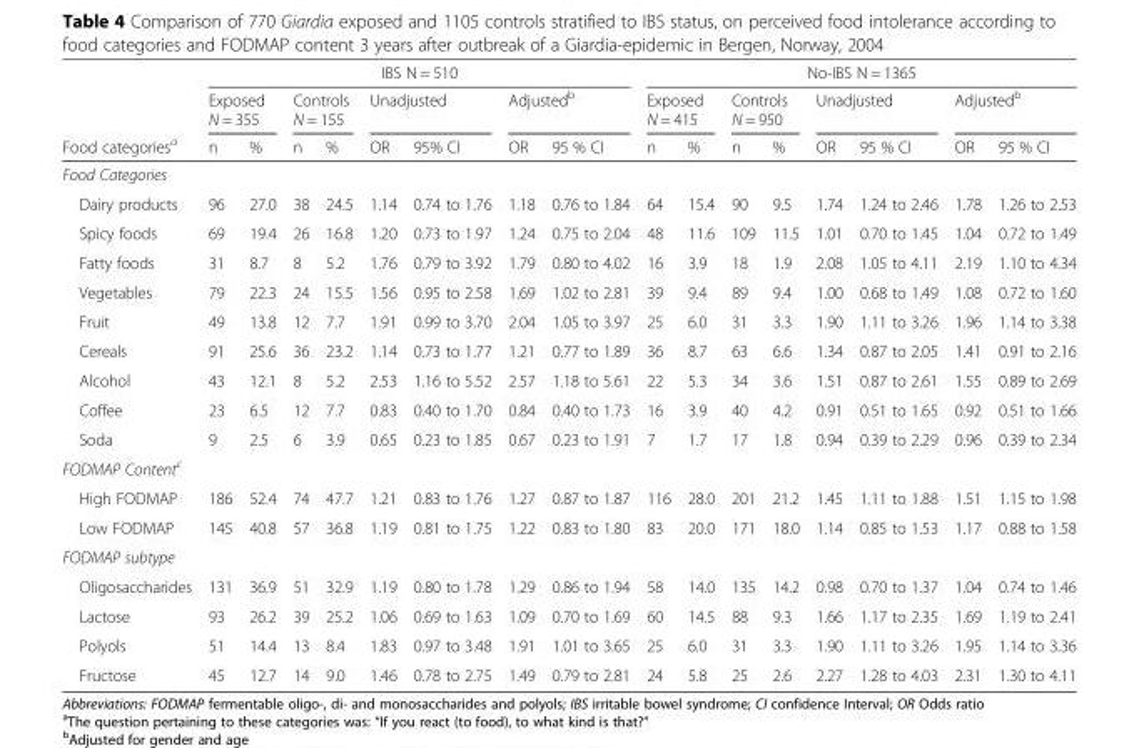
<table><thead><tr><td rowspan="3">Food categories<sup>a</sup></td><td colspan="8">IBS N = 510</td><td colspan="8">No-IBS N = 1365</td></tr><tr><td colspan="2">Exposed N = 355</td><td colspan="2">Controls N = 155</td><td colspan="2">Unadjusted</td><td colspan="2">Adjusted<sup>b</sup></td><td colspan="2">Exposed N = 415</td><td colspan="2">Controls N = 950</td><td colspan="2">Unadjusted</td><td colspan="2">Adjusted<sup>b</sup></td></tr><tr><td>n</td><td>%</td><td>n</td><td>%</td><td>OR</td><td>95% CI</td><td>OR</td><td>95 % CI</td><td>n</td><td>%</td><td>n</td><td>%</td><td>OR</td><td>95 % CI</td><td>OR</td><td>95 % CI</td></tr></thead><tbody><tr><td colspan="17">Food Categories</td></tr><tr><td>Dairy products</td><td>96</td><td>27.0</td><td>38</td><td>24.5</td><td>1.14</td><td>0.74 to 1.76</td><td>1.18</td><td>0.76 to 1.84</td><td>64</td><td>15.4</td><td>90</td><td>9.5</td><td>1.74</td><td>1.24 to 2.46</td><td>1.78</td><td>1.26 to 2.53</td></tr><tr><td>Spicy foods</td><td>69</td><td>19.4</td><td>26</td><td>16.8</td><td>1.20</td><td>0.73 to 1.97</td><td>1.24</td><td>0.75 to 2.04</td><td>48</td><td>11.6</td><td>109</td><td>11.5</td><td>1.01</td><td>0.70 to 1.45</td><td>1.04</td><td>0.72 to 1.49</td></tr><tr><td>Fatty foods</td><td>31</td><td>8.7</td><td>8</td><td>5.2</td><td>1.76</td><td>0.79 to 3.92</td><td>1.79</td><td>0.80 to 4.02</td><td>16</td><td>3.9</td><td>18</td><td>1.9</td><td>2.08</td><td>1.05 to 4.11</td><td>2.19</td><td>1.10 to 4.34</td></tr><tr><td>Vegetables</td><td>79</td><td>22.3</td><td>24</td><td>15.5</td><td>1.56</td><td>0.95 to 2.58</td><td>1.69</td><td>1.02 to 2.81</td><td>39</td><td>9.4</td><td>89</td><td>9.4</td><td>1.00</td><td>0.68 to 1.49</td><td>1.08</td><td>0.72 to 1.60</td></tr><tr><td>Fruit</td><td>49</td><td>13.8</td><td>12</td><td>7.7</td><td>1.91</td><td>0.99 to 3.70</td><td>2.04</td><td>1.05 to 3.97</td><td>25</td><td>6.0</td><td>31</td><td>3.3</td><td>1.90</td><td>1.11 to 3.26</td><td>1.96</td><td>1.14 to 3.38</td></tr><tr><td>Cereals</td><td>91</td><td>25.6</td><td>36</td><td>23.2</td><td>1.14</td><td>0.73 to 1.77</td><td>1.21</td><td>0.77 to 1.89</td><td>36</td><td>8.7</td><td>63</td><td>6.6</td><td>1.34</td><td>0.87 to 2.05</td><td>1.41</td><td>0.91 to 2.16</td></tr><tr><td>Alcohol</td><td>43</td><td>12.1</td><td>8</td><td>5.2</td><td>2.53</td><td>1.16 to 5.52</td><td>2.57</td><td>1.18 to 5.61</td><td>22</td><td>5.3</td><td>34</td><td>3.6</td><td>1.51</td><td>0.87 to 2.61</td><td>1.55</td><td>0.89 to 2.69</td></tr><tr><td>Coffee</td><td>23</td><td>6.5</td><td>12</td><td>7.7</td><td>0.83</td><td>0.40 to 1.70</td><td>0.84</td><td>0.40 to 1.73</td><td>16</td><td>3.9</td><td>40</td><td>4.2</td><td>0.91</td><td>0.51 to 1.65</td><td>0.92</td><td>0.51 to 1.66</td></tr><tr><td>Soda</td><td>9</td><td>2.5</td><td>6</td><td>3.9</td><td>0.65</td><td>0.23 to 1.85</td><td>0.67</td><td>0.23 to 1.91</td><td>7</td><td>1.7</td><td>17</td><td>1.8</td><td>0.94</td><td>0.39 to 2.29</td><td>0.96</td><td>0.39 to 2.34</td></tr><tr><td colspan="17">FODMAP Content<sup>c</sup></td></tr><tr><td>High FODMAP</td><td>186</td><td>52.4</td><td>74</td><td>47.7</td><td>1.21</td><td>0.83 to 1.76</td><td>1.27</td><td>0.87 to 1.87</td><td>116</td><td>28.0</td><td>201</td><td>21.2</td><td>1.45</td><td>1.11 to 1.88</td><td>1.51</td><td>1.15 to 1.98</td></tr><tr><td>Low FODMAP</td><td>145</td><td>40.8</td><td>57</td><td>36.8</td><td>1.19</td><td>0.81 to 1.75</td><td>1.22</td><td>0.83 to 1.80</td><td>83</td><td>20.0</td><td>171</td><td>18.0</td><td>1.14</td><td>0.85 to 1.53</td><td>1.17</td><td>0.88 to 1.58</td></tr><tr><td colspan="17">FODMAP subtype</td></tr><tr><td>Oligosaccharides</td><td>131</td><td>36.9</td><td>51</td><td>32.9</td><td>1.19</td><td>0.80 to 1.78</td><td>1.29</td><td>0.86 to 1.94</td><td>58</td><td>14.0</td><td>135</td><td>14.2</td><td>0.98</td><td>0.70 to 1.37</td><td>1.04</td><td>0.74 to 1.46</td></tr><tr><td>Lactose</td><td>93</td><td>26.2</td><td>39</td><td>25.2</td><td>1.06</td><td>0.69 to 1.63</td><td>1.09</td><td>0.70 to 1.69</td><td>60</td><td>14.5</td><td>88</td><td>9.3</td><td>1.66</td><td>1.17 to 2.35</td><td>1.69</td><td>1.19 to 2.41</td></tr><tr><td>Polyols</td><td>51</td><td>14.4</td><td>13</td><td>8.4</td><td>1.83</td><td>0.97 to 3.48</td><td>1.91</td><td>1.01 to 3.65</td><td>25</td><td>6.0</td><td>31</td><td>3.3</td><td>1.90</td><td>1.11 to 3.26</td><td>1.95</td><td>1.14 to 3.36</td></tr><tr><td>Fructose</td><td>45</td><td>12.7</td><td>14</td><td>9.0</td><td>1.46</td><td>0.78 to 2.75</td><td>1.49</td><td>0.79 to 2.81</td><td>24</td><td>5.8</td><td>25</td><td>2.6</td><td>2.27</td><td>1.28 to 4.03</td><td>2.31</td><td>1.30 to 4.11</td></tr></tbody></table>